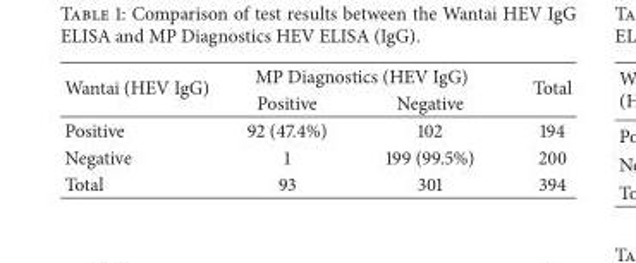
<table><thead><tr><td rowspan="2">Wantai (HEV IgG)</td><td colspan="2">MP Diagnostics (HEV IgG)</td><td rowspan="2">Total</td></tr><tr><td>Positive</td><td>Negative</td></tr></thead><tbody><tr><td>Positive</td><td>92 (47.4%)</td><td>102</td><td>194</td></tr><tr><td>Negative</td><td>1</td><td>199 (99.5%)</td><td>200</td></tr><tr><td>Total</td><td>93</td><td>301</td><td>394</td></tr></tbody></table>